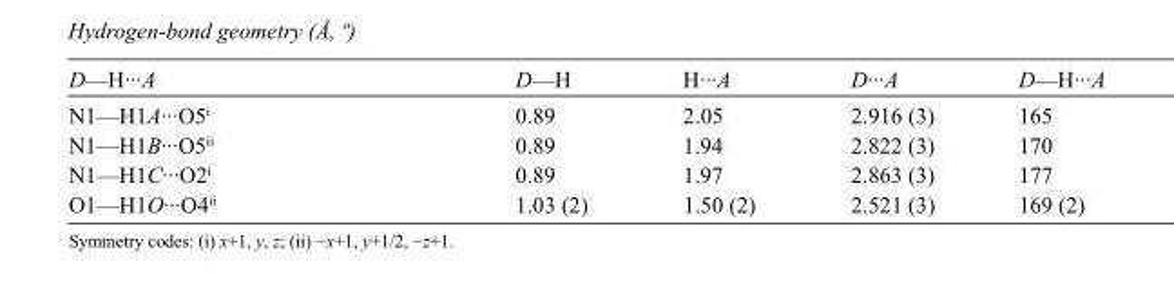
<table><tbody><tr><td>D—H···A</td><td>D—H</td><td>H···A</td><td>D···A</td><td>D—H···A</td></tr><tr><td>N1—H1A···O5<sup>i</sup></td><td>0.89</td><td>2.05</td><td>2.916 (3)</td><td>165</td></tr><tr><td>N1—H1B···O5<sup>ii</sup></td><td>0.89</td><td>1.94</td><td>2.822 (3)</td><td>170</td></tr><tr><td>N1—H1C···O2<sup>i</sup></td><td>0.89</td><td>1.97</td><td>2.863 (3)</td><td>177</td></tr><tr><td>O1—H1O···O4<sup>ii</sup></td><td>1.03 (2)</td><td>1.50 (2)</td><td>2.521 (3)</td><td>169 (2)</td></tr></tbody></table>